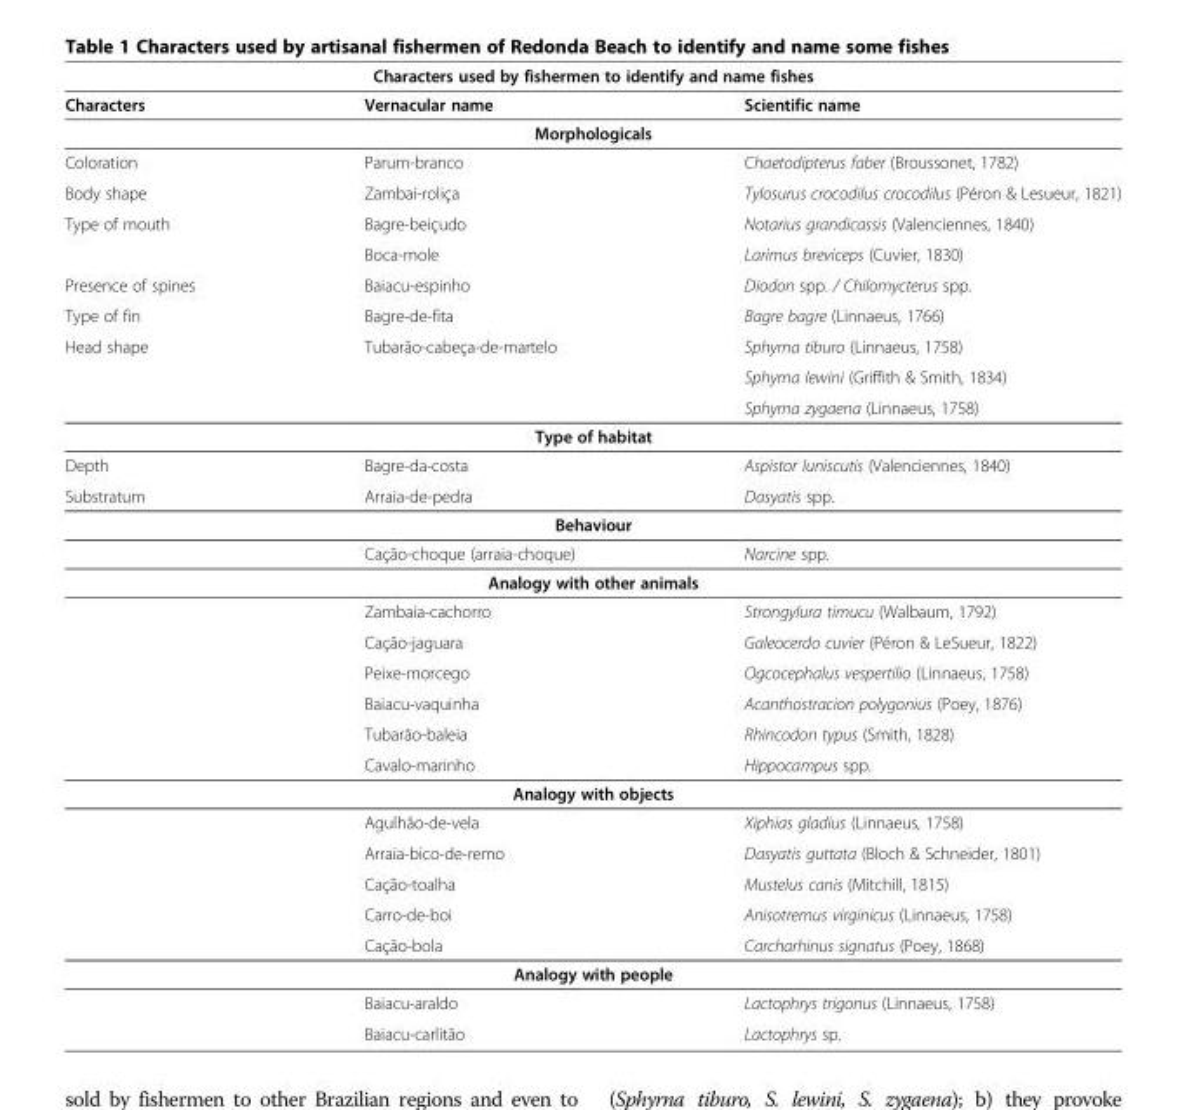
<table><thead><tr><td colspan="3">Characters used by fishermen to identify and name fishes</td></tr><tr><td>Characters</td><td>Vernacular name</td><td>Scientific name</td></tr></thead><tbody><tr><td colspan="3">Morphologicals</td></tr><tr><td>Coloration</td><td>Parum-branco</td><td>Chaetodipterus faber (Broussonet, 1782)</td></tr><tr><td>Body shape</td><td>Zambai-roliça</td><td>Tylosurus crocodilus crocodilus (Péron &amp; Lesueur, 1821)</td></tr><tr><td rowspan="2">Type of mouth</td><td>Bagre-beiçudo</td><td>Notarius grandicassis (Valenciennes, 1840)</td></tr><tr><td>Boca-mole</td><td>Larimus breviceps (Cuvier, 1830)</td></tr><tr><td>Presence of spines</td><td>Baiacu-espinho</td><td>Diodon spp. / Chilomycterus spp.</td></tr><tr><td>Type of fin</td><td>Bagre-de-fita</td><td>Bagre bagre (Linnaeus, 1766)</td></tr><tr><td rowspan="3">Head shape</td><td rowspan="2">Tubarão-cabeça-de-martelo</td><td>Sphyrna tiburo (Linnaeus, 1758)</td></tr><tr><td>Sphyrna lewini (Griffith &amp; Smith, 1834)</td></tr><tr><td></td><td>Sphyrna zygaena (Linnaeus, 1758)</td></tr><tr><td colspan="3">Type of habitat</td></tr><tr><td>Depth</td><td>Bagre-da-costa</td><td>Aspistor luniscutis (Valenciennes, 1840)</td></tr><tr><td>Substratum</td><td>Arraia-de-pedra</td><td>Dasyatis spp.</td></tr><tr><td colspan="3">Behaviour</td></tr><tr><td></td><td>Cação-choque (arraia-choque)</td><td>Narcine spp.</td></tr><tr><td colspan="3">Analogy with other animals</td></tr><tr><td rowspan="5"></td><td>Zambaia-cachorro</td><td>Strongylura timucu (Walbaum, 1792)</td></tr><tr><td>Cação-jaguara</td><td>Galeocerdo cuvier (Péron &amp; LeSueur, 1822)</td></tr><tr><td>Peixe-morcego</td><td>Ogcocephalus vespertilio (Linnaeus, 1758)</td></tr><tr><td>Baiacu-vaquinha</td><td>Acanthostracion polygonius (Poey, 1876)</td></tr><tr><td>Tubarão-baleia</td><td>Rhincodon typus (Smith, 1828)</td></tr><tr><td></td><td>Cavalo-marinho</td><td>Hippocampus spp.</td></tr><tr><td colspan="3">Analogy with objects</td></tr><tr><td rowspan="4"></td><td>Agulhão-de-vela</td><td>Xiphias gladius (Linnaeus, 1758)</td></tr><tr><td>Arraia-bico-de-remo</td><td>Dasyatis guttata (Bloch &amp; Schneider, 1801)</td></tr><tr><td>Cação-toalha</td><td>Mustelus canis (Mitchill, 1815)</td></tr><tr><td>Carro-de-boi</td><td>Anisotremus virginicus (Linnaeus, 1758)</td></tr><tr><td></td><td>Cação-bola</td><td>Carcharhinus signatus (Poey, 1868)</td></tr><tr><td colspan="3">Analogy with people</td></tr><tr><td rowspan="2"></td><td>Baiacu-araldo</td><td>Lactophrys trigonus (Linnaeus, 1758)</td></tr><tr><td>Baiacu-carlitão</td><td>Lactophrys sp.</td></tr></tbody></table>